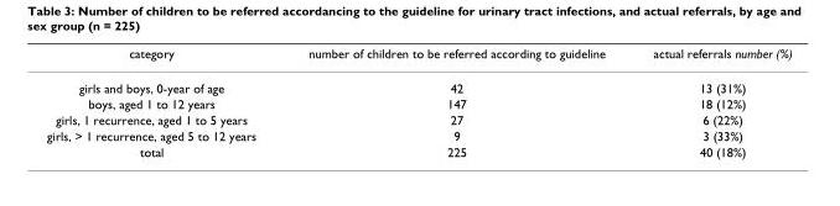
<table><thead><tr><td>category</td><td>number of children to be referred according to guideline</td><td>actual referrals number (%)</td></tr></thead><tbody><tr><td>girls and boys, 0-year of age</td><td>42</td><td>13 (31%)</td></tr><tr><td>boys, aged 1 to 12 years</td><td>147</td><td>18 (12%)</td></tr><tr><td>girls, 1 recurrence, aged 1 to 5 years</td><td>27</td><td>6 (22%)</td></tr><tr><td>girls, &gt; 1 recurrence, aged 5 to 12 years</td><td>9</td><td>3 (33%)</td></tr><tr><td>total</td><td>225</td><td>40 (18%)</td></tr></tbody></table>